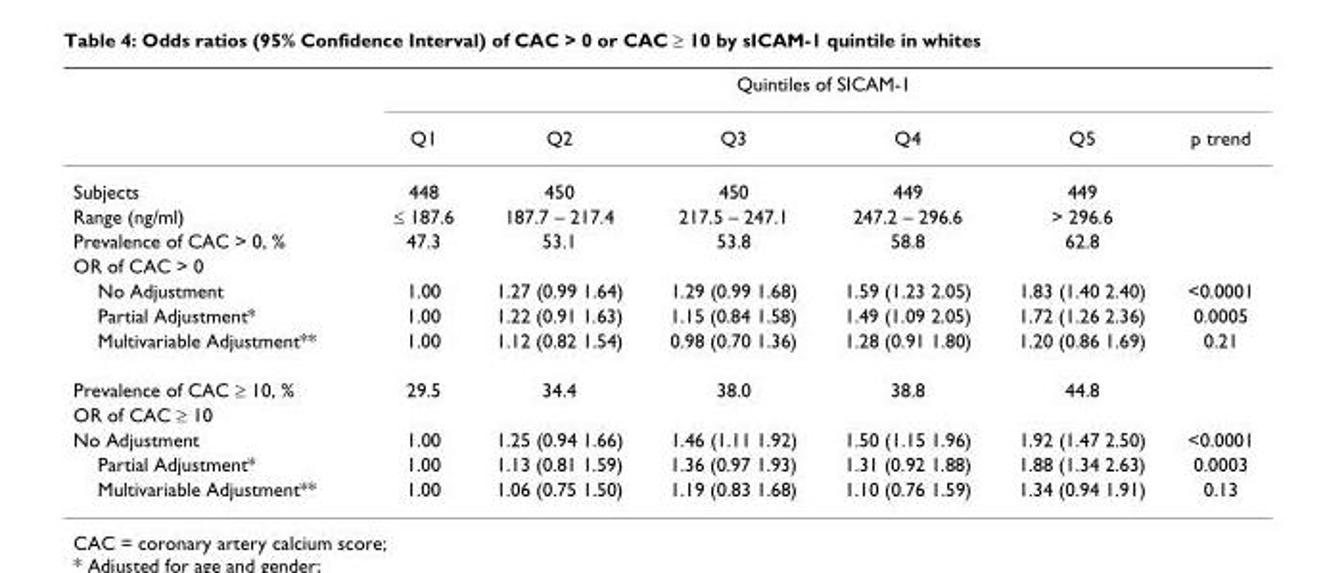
<table><thead><tr><td rowspan="2"></td><td colspan="6">Quintiles of SICAM-1</td></tr><tr><td>Q1</td><td>Q2</td><td>Q3</td><td>Q4</td><td>Q5</td><td>p trend</td></tr></thead><tbody><tr><td>Subjects</td><td>448</td><td>450</td><td>450</td><td>449</td><td>449</td><td></td></tr><tr><td>Range (ng/ml)</td><td>≤ 187.6</td><td>187.7 – 217.4</td><td>217.5 – 247.1</td><td>247.2 – 296.6</td><td>&gt; 296.6</td><td></td></tr><tr><td>Prevalence of CAC &gt; 0, %</td><td>47.3</td><td>53.1</td><td>53.8</td><td>58.8</td><td>62.8</td><td></td></tr><tr><td colspan="7">OR of CAC &gt; 0</td></tr><tr><td>No Adjustment</td><td>1.00</td><td>1.27 (0.99 1.64)</td><td>1.29 (0.99 1.68)</td><td>1.59 (1.23 2.05)</td><td>1.83 (1.40 2.40)</td><td>&lt;0.0001</td></tr><tr><td>Partial Adjustment*</td><td>1.00</td><td>1.22 (0.91 1.63)</td><td>1.15 (0.84 1.58)</td><td>1.49 (1.09 2.05)</td><td>1.72 (1.26 2.36)</td><td>0.0005</td></tr><tr><td>Multivariable Adjustment**</td><td>1.00</td><td>1.12 (0.82 1.54)</td><td>0.98 (0.70 1.36)</td><td>1.28 (0.91 1.80)</td><td>1.20 (0.86 1.69)</td><td>0.21</td></tr><tr><td>Prevalence of CAC ≥ 10, %</td><td>29.5</td><td>34.4</td><td>38.0</td><td>38.8</td><td>44.8</td><td></td></tr><tr><td colspan="7">OR of CAC ≥ 10</td></tr><tr><td>No Adjustment</td><td>1.00</td><td>1.25 (0.94 1.66)</td><td>1.46 (1.11 1.92)</td><td>1.50 (1.15 1.96)</td><td>1.92 (1.47 2.50)</td><td>&lt;0.0001</td></tr><tr><td>Partial Adjustment*</td><td>1.00</td><td>1.13 (0.81 1.59)</td><td>1.36 (0.97 1.93)</td><td>1.31 (0.92 1.88)</td><td>1.88 (1.34 2.63)</td><td>0.0003</td></tr><tr><td>Multivariable Adjustment**</td><td>1.00</td><td>1.06 (0.75 1.50)</td><td>1.19 (0.83 1.68)</td><td>1.10 (0.76 1.59)</td><td>1.34 (0.94 1.91)</td><td>0.13</td></tr></tbody></table>